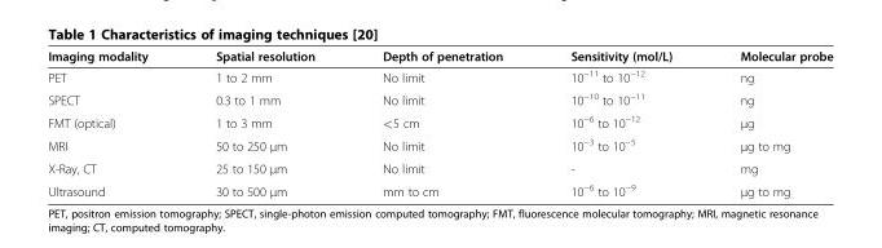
<table><thead><tr><td>Imaging modality</td><td>Spatial resolution</td><td>Depth of penetration</td><td>Sensitivity (mol/L)</td><td>Molecular probe</td></tr></thead><tbody><tr><td>PET</td><td>1 to 2 mm</td><td>No limit</td><td>10<sup>−11</sup> to 10<sup>−12</sup></td><td>ng</td></tr><tr><td>SPECT</td><td>0.3 to 1 mm</td><td>No limit</td><td>10<sup>−10</sup> to 10<sup>−11</sup></td><td>ng</td></tr><tr><td>FMT (optical)</td><td>1 to 3 mm</td><td>&lt;5 cm</td><td>10<sup>−6</sup> to 10<sup>−12</sup></td><td>μg</td></tr><tr><td>MRI</td><td>50 to 250 μm</td><td>No limit</td><td>10<sup>−3</sup> to 10<sup>−5</sup></td><td>μg to mg</td></tr><tr><td>X-Ray, CT</td><td>25 to 150 μm</td><td>No limit</td><td>-</td><td>mg</td></tr><tr><td>Ultrasound</td><td>30 to 500 μm</td><td>mm to cm</td><td>10<sup>−6</sup> to 10<sup>−9</sup></td><td>μg to mg</td></tr></tbody></table>